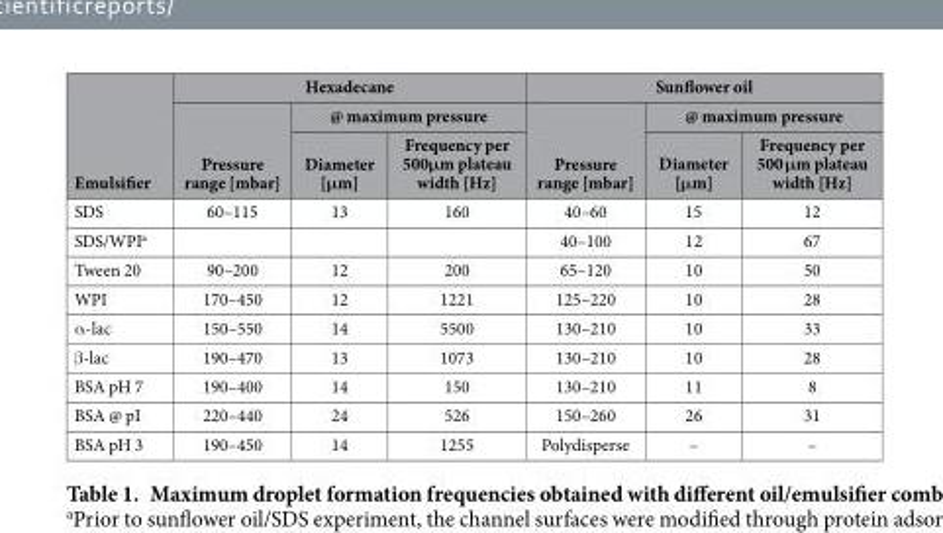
<table><thead><tr><td rowspan="3">Emulsifier</td><td colspan="3">Hexadecane</td><td colspan="3">Sunflower oil</td></tr><tr><td rowspan="2">Pressure range [mbar]</td><td colspan="2">@ maximum pressure</td><td rowspan="2">Pressure range [mbar]</td><td colspan="2">@ maximum pressure</td></tr><tr><td>Diameter [μm]</td><td>Frequency per 500μm plateau width [Hz]</td><td>Diameter [μm]</td><td>Frequency per 500 μm plateau width [Hz]</td></tr></thead><tbody><tr><td>SDS</td><td>60–115</td><td>13</td><td>160</td><td>40–60</td><td>15</td><td>12</td></tr><tr><td>SDS/WPI<sup>a</sup></td><td></td><td></td><td></td><td>40–100</td><td>12</td><td>67</td></tr><tr><td>Tween 20</td><td>90–200</td><td>12</td><td>200</td><td>65–120</td><td>10</td><td>50</td></tr><tr><td>WPI</td><td>170–450</td><td>12</td><td>1221</td><td>125–220</td><td>10</td><td>28</td></tr><tr><td>α-lac</td><td>150–550</td><td>14</td><td>5500</td><td>130–210</td><td>10</td><td>33</td></tr><tr><td>β-lac</td><td>190–470</td><td>13</td><td>1073</td><td>130–210</td><td>10</td><td>28</td></tr><tr><td>BSA pH 7</td><td>190–400</td><td>14</td><td>150</td><td>130–210</td><td>11</td><td>8</td></tr><tr><td>BSA @ pI</td><td>220–440</td><td>24</td><td>526</td><td>150–260</td><td>26</td><td>31</td></tr><tr><td>BSA pH 3</td><td>190–450</td><td>14</td><td>1255</td><td>Polydisperse</td><td>–</td><td>–</td></tr></tbody></table>